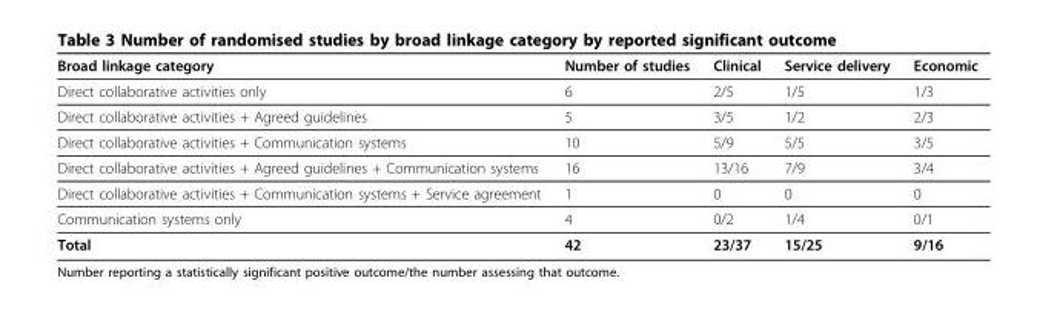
<table><thead><tr><td>Broad linkage category</td><td>Number of studies</td><td>Clinical</td><td>Service delivery</td><td>Economic</td></tr></thead><tbody><tr><td>Direct collaborative activities only</td><td>6</td><td>2/5</td><td>1/5</td><td>1/3</td></tr><tr><td>Direct collaborative activities + Agreed guidelines</td><td>5</td><td>3/5</td><td>1/2</td><td>2/3</td></tr><tr><td>Direct collaborative activities + Communication systems</td><td>10</td><td>5/9</td><td>5/5</td><td>3/5</td></tr><tr><td>Direct collaborative activities + Agreed guidelines + Communication systems</td><td>16</td><td>13/16</td><td>7/9</td><td>3/4</td></tr><tr><td>Direct collaborative activities + Communication systems + Service agreement</td><td>1</td><td>0</td><td>0</td><td>0</td></tr><tr><td>Communication systems only</td><td>4</td><td>0/2</td><td>1/4</td><td>0/1</td></tr><tr><td>Total</td><td>42</td><td>23/37</td><td>15/25</td><td>9/16</td></tr></tbody></table>